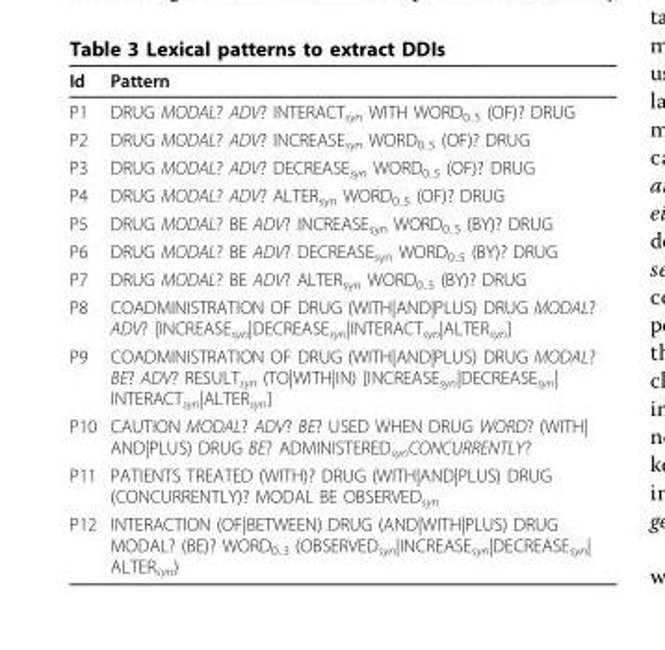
<table><thead><tr><td>Id</td><td>Pattern</td></tr></thead><tbody><tr><td>P1</td><td>DRUG MODAL? ADV? INTERACT<sub>syn</sub> WITH WORD<sub>0..5</sub> (OF)? DRUG</td></tr><tr><td>P2</td><td>DRUG MODAL? ADV? INCREASE<sub>syn</sub> WORD<sub>0..5</sub> (OF)? DRUG</td></tr><tr><td>P3</td><td>DRUG MODAL? ADV? DECREASE<sub>syn</sub> WORD<sub>0..5</sub> (OF)? DRUG</td></tr><tr><td>P4</td><td>DRUG MODAL? ADV? ALTER<sub>syn</sub> WORD<sub>0..5</sub> (OF)? DRUG</td></tr><tr><td>P5</td><td>DRUG MODAL? BE ADV? INCREASE<sub>syn</sub> WORD<sub>0..5</sub> (BY)? DRUG</td></tr><tr><td>P6</td><td>DRUG MODAL? BE ADV? DECREASE<sub>syn</sub> WORD<sub>0..5</sub> (BY)? DRUG</td></tr><tr><td>P7</td><td>DRUG MODAL? BE ADV? ALTER<sub>syn</sub> WORD<sub>0..5</sub> (BY)? DRUG</td></tr><tr><td>P8</td><td>COADMINISTRATION OF DRUG (WITH|AND|PLUS) DRUG MODAL? ADV? [INCREASE<sub>syn</sub>|DECREASE<sub>syn</sub>|INTERACT<sub>syn</sub>|ALTER<sub>syn</sub>]</td></tr><tr><td>P9</td><td>COADMINISTRATION OF DRUG (WITH|AND|PLUS) DRUG MODAL? BE? ADV? RESULT<sub>syn</sub> (TO|WITH|IN) [INCREASE<sub>syn</sub>|DECREASE<sub>syn</sub>| INTERACT<sub>syn</sub>|ALTER<sub>syn</sub>]</td></tr><tr><td>P10</td><td>CAUTION MODAL? ADV? BE? USED WHEN DRUG WORD? (WITH| AND|PLUS) DRUG BE? ADMINISTERED<sub>syn</sub>CONCURRENTLY?</td></tr><tr><td>P11</td><td>PATIENTS TREATED (WITH)? DRUG (WITH|AND|PLUS) DRUG (CONCURRENTLY)? MODAL BE OBSERVED<sub>syn</sub></td></tr><tr><td>P12</td><td>INTERACTION (OF|BETWEEN) DRUG (AND|WITH|PLUS) DRUG MODAL? (BE)? WORD<sub>0..3</sub> (OBSERVED<sub>syn</sub>|INCREASE<sub>syn</sub>|DECREASE<sub>syn</sub>| ALTER<sub>syn</sub>)</td></tr></tbody></table>